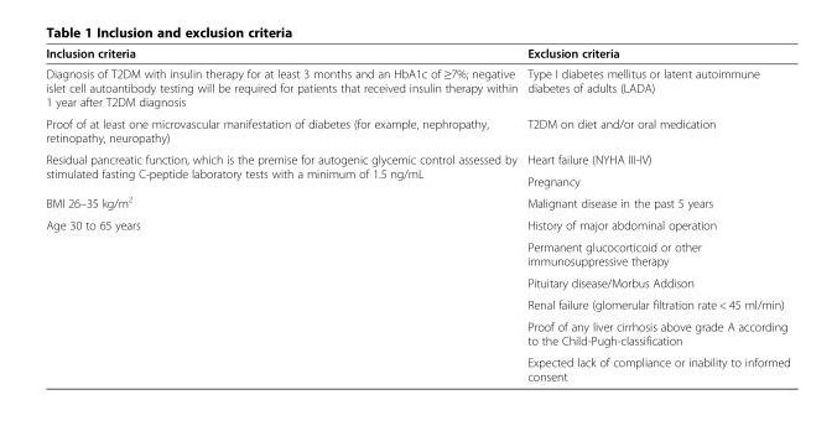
<table><thead><tr><td>Inclusion criteria</td><td>Exclusion criteria</td></tr></thead><tbody><tr><td>Diagnosis of T2DM with insulin therapy for at least 3 months and an HbA1c of ≥7%; negative islet cell autoantibody testing will be required for patients that received insulin therapy within 1 year after T2DM diagnosis</td><td>Type I diabetes mellitus or latent autoimmune diabetes of adults (LADA)</td></tr><tr><td>Proof of at least one microvascular manifestation of diabetes (for example, nephropathy, retinopathy, neuropathy)</td><td>T2DM on diet and/or oral medication</td></tr><tr><td rowspan="2">Residual pancreatic function, which is the premise for autogenic glycemic control assessed by stimulated fasting C-peptide laboratory tests with a minimum of 1.5 ng/mL</td><td>Heart failure (NYHA III-IV)</td></tr><tr><td>Pregnancy</td></tr><tr><td>BMI 26–35 kg/m<sup>2</sup></td><td>Malignant disease in the past 5 years</td></tr><tr><td rowspan="6">Age 30 to 65 years</td><td>History of major abdominal operation</td></tr><tr><td>Permanent glucocorticoid or other immunosuppressive therapy</td></tr><tr><td>Pituitary disease/Morbus Addison</td></tr><tr><td>Renal failure (glomerular filtration rate &lt; 45 ml/min)</td></tr><tr><td>Proof of any liver cirrhosis above grade A according to the Child-Pugh-classification</td></tr><tr><td>Expected lack of compliance or inability to informed consent</td></tr></tbody></table>